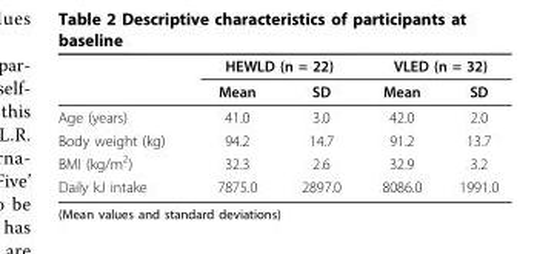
<table><thead><tr><td rowspan="2"></td><td colspan="2">HEWLD (n = 22)</td><td colspan="2">VLED (n = 32)</td></tr><tr><td>Mean</td><td>SD</td><td>Mean</td><td>SD</td></tr></thead><tbody><tr><td>Age (years)</td><td>41.0</td><td>3.0</td><td>42.0</td><td>2.0</td></tr><tr><td>Body weight (kg)</td><td>94.2</td><td>14.7</td><td>91.2</td><td>13.7</td></tr><tr><td>BMI (kg/m<sup>2</sup>)</td><td>32.3</td><td>2.6</td><td>32.9</td><td>3.2</td></tr><tr><td>Daily kJ intake</td><td>7875.0</td><td>2897.0</td><td>8086.0</td><td>1991.0</td></tr></tbody></table>